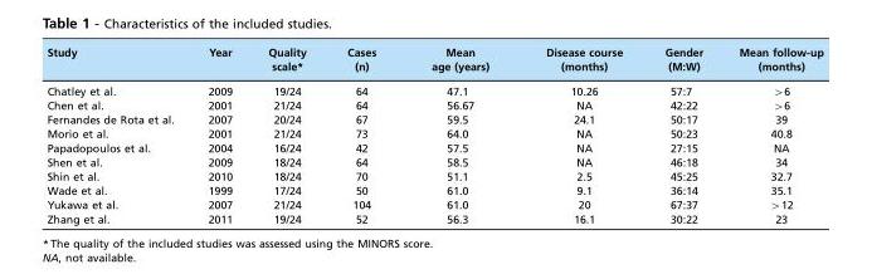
<table><thead><tr><td>Study</td><td>Year</td><td>Quality scale*</td><td>Cases (n)</td><td>Mean age (years)</td><td>Disease course (months)</td><td>Gender (M:W)</td><td>Mean follow-up (months)</td></tr></thead><tbody><tr><td>Chatley et al.</td><td>2009</td><td>19/24</td><td>64</td><td>47.1</td><td>10.26</td><td>57:7</td><td>&gt;6</td></tr><tr><td>Chen et al.</td><td>2001</td><td>21/24</td><td>64</td><td>56.67</td><td>NA</td><td>42:22</td><td>&gt;6</td></tr><tr><td>Fernandes de Rota et al.</td><td>2007</td><td>20/24</td><td>67</td><td>59.5</td><td>24.1</td><td>50:17</td><td>39</td></tr><tr><td>Morio et al.</td><td>2001</td><td>21/24</td><td>73</td><td>64.0</td><td>NA</td><td>50:23</td><td>40.8</td></tr><tr><td>Papadopoulos et al.</td><td>2004</td><td>16/24</td><td>42</td><td>57.5</td><td>NA</td><td>27:15</td><td>NA</td></tr><tr><td>Shen et al.</td><td>2009</td><td>18/24</td><td>64</td><td>58.5</td><td>NA</td><td>46:18</td><td>34</td></tr><tr><td>Shin et al.</td><td>2010</td><td>18/24</td><td>70</td><td>51.1</td><td>2.5</td><td>45:25</td><td>32.7</td></tr><tr><td>Wade et al.</td><td>1999</td><td>17/24</td><td>50</td><td>61.0</td><td>9.1</td><td>36:14</td><td>35.1</td></tr><tr><td>Yukawa et al.</td><td>2007</td><td>21/24</td><td>104</td><td>61.0</td><td>20</td><td>67:37</td><td>&gt;12</td></tr><tr><td>Zhang et al.</td><td>2011</td><td>19/24</td><td>52</td><td>56.3</td><td>16.1</td><td>30:22</td><td>23</td></tr></tbody></table>